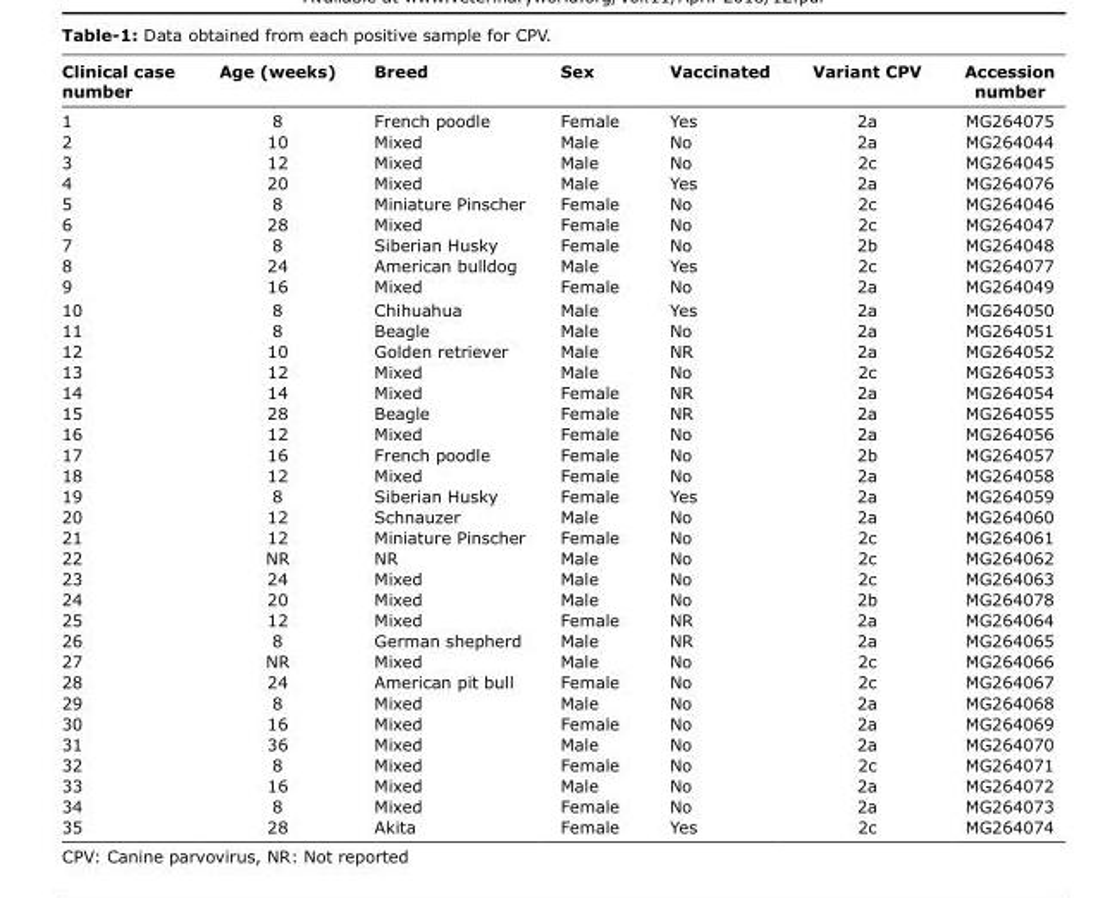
<table><thead><tr><td>Clinical case number</td><td>Age (weeks)</td><td>Breed</td><td>Sex</td><td>Vaccinated</td><td>Variant CPV</td><td>Accession number</td></tr></thead><tbody><tr><td>1</td><td>8</td><td>French poodle</td><td>Female</td><td>Yes</td><td>2a</td><td>MG264075</td></tr><tr><td>2</td><td>10</td><td>Mixed</td><td>Male</td><td>No</td><td>2a</td><td>MG264044</td></tr><tr><td>3</td><td>12</td><td>Mixed</td><td>Male</td><td>No</td><td>2c</td><td>MG264045</td></tr><tr><td>4</td><td>20</td><td>Mixed</td><td>Male</td><td>Yes</td><td>2a</td><td>MG264076</td></tr><tr><td>5</td><td>8</td><td>Miniature Pinscher</td><td>Female</td><td>No</td><td>2c</td><td>MG264046</td></tr><tr><td>6</td><td>28</td><td>Mixed</td><td>Female</td><td>No</td><td>2c</td><td>MG264047</td></tr><tr><td>7</td><td>8</td><td>Siberian Husky</td><td>Female</td><td>No</td><td>2b</td><td>MG264048</td></tr><tr><td>8</td><td>24</td><td>American bulldog</td><td>Male</td><td>Yes</td><td>2c</td><td>MG264077</td></tr><tr><td>9</td><td>16</td><td>Mixed</td><td>Female</td><td>No</td><td>2a</td><td>MG264049</td></tr><tr><td>10</td><td>8</td><td>Chihuahua</td><td>Male</td><td>Yes</td><td>2a</td><td>MG264050</td></tr><tr><td>11</td><td>8</td><td>Beagle</td><td>Male</td><td>No</td><td>2a</td><td>MG264051</td></tr><tr><td>12</td><td>10</td><td>Golden retriever</td><td>Male</td><td>NR</td><td>2a</td><td>MG264052</td></tr><tr><td>13</td><td>12</td><td>Mixed</td><td>Male</td><td>No</td><td>2c</td><td>MG264053</td></tr><tr><td>14</td><td>14</td><td>Mixed</td><td>Female</td><td>NR</td><td>2a</td><td>MG264054</td></tr><tr><td>15</td><td>28</td><td>Beagle</td><td>Female</td><td>NR</td><td>2a</td><td>MG264055</td></tr><tr><td>16</td><td>12</td><td>Mixed</td><td>Female</td><td>No</td><td>2a</td><td>MG264056</td></tr><tr><td>17</td><td>16</td><td>French poodle</td><td>Female</td><td>No</td><td>2b</td><td>MG264057</td></tr><tr><td>18</td><td>12</td><td>Mixed</td><td>Female</td><td>No</td><td>2a</td><td>MG264058</td></tr><tr><td>19</td><td>8</td><td>Siberian Husky</td><td>Female</td><td>Yes</td><td>2a</td><td>MG264059</td></tr><tr><td>20</td><td>12</td><td>Schnauzer</td><td>Male</td><td>No</td><td>2a</td><td>MG264060</td></tr><tr><td>21</td><td>12</td><td>Miniature Pinscher</td><td>Female</td><td>No</td><td>2c</td><td>MG264061</td></tr><tr><td>22</td><td>NR</td><td>NR</td><td>Male</td><td>No</td><td>2c</td><td>MG264062</td></tr><tr><td>23</td><td>24</td><td>Mixed</td><td>Male</td><td>No</td><td>2c</td><td>MG264063</td></tr><tr><td>24</td><td>20</td><td>Mixed</td><td>Male</td><td>No</td><td>2b</td><td>MG264078</td></tr><tr><td>25</td><td>12</td><td>Mixed</td><td>Female</td><td>NR</td><td>2a</td><td>MG264064</td></tr><tr><td>26</td><td>8</td><td>German shepherd</td><td>Male</td><td>NR</td><td>2a</td><td>MG264065</td></tr><tr><td>27</td><td>NR</td><td>Mixed</td><td>Male</td><td>No</td><td>2c</td><td>MG264066</td></tr><tr><td>28</td><td>24</td><td>American pit bull</td><td>Female</td><td>No</td><td>2c</td><td>MG264067</td></tr><tr><td>29</td><td>8</td><td>Mixed</td><td>Male</td><td>No</td><td>2a</td><td>MG264068</td></tr><tr><td>30</td><td>16</td><td>Mixed</td><td>Female</td><td>No</td><td>2a</td><td>MG264069</td></tr><tr><td>31</td><td>36</td><td>Mixed</td><td>Male</td><td>No</td><td>2a</td><td>MG264070</td></tr><tr><td>32</td><td>8</td><td>Mixed</td><td>Female</td><td>No</td><td>2c</td><td>MG264071</td></tr><tr><td>33</td><td>16</td><td>Mixed</td><td>Male</td><td>No</td><td>2a</td><td>MG264072</td></tr><tr><td>34</td><td>8</td><td>Mixed</td><td>Female</td><td>No</td><td>2a</td><td>MG264073</td></tr><tr><td>35</td><td>28</td><td>Akita</td><td>Female</td><td>Yes</td><td>2c</td><td>MG264074</td></tr></tbody></table>